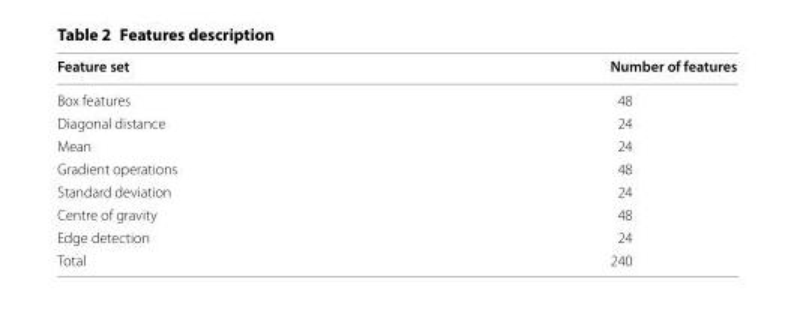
<table><thead><tr><td>Feature set</td><td>Number of features</td></tr></thead><tbody><tr><td>Box features</td><td>48</td></tr><tr><td>Diagonal distance</td><td>24</td></tr><tr><td>Mean</td><td>24</td></tr><tr><td>Gradient operations</td><td>48</td></tr><tr><td>Standard deviation</td><td>24</td></tr><tr><td>Centre of gravity</td><td>48</td></tr><tr><td>Edge detection</td><td>24</td></tr><tr><td>Total</td><td>240</td></tr></tbody></table>